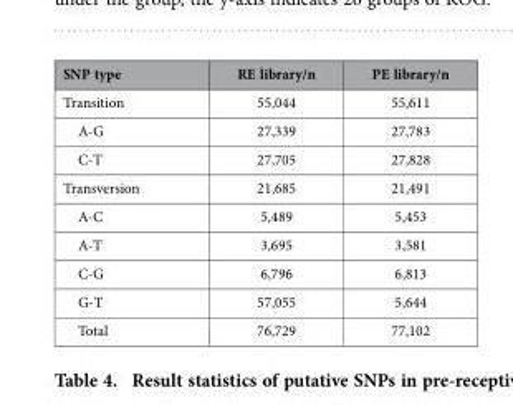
<table><thead><tr><td>SNP type</td><td>RE library/n</td><td>PE library/n</td></tr></thead><tbody><tr><td>Transition</td><td>55,044</td><td>55,611</td></tr><tr><td>A-G</td><td>27,339</td><td>27,783</td></tr><tr><td>C-T</td><td>27,705</td><td>27,828</td></tr><tr><td>Transversion</td><td>21,685</td><td>21,491</td></tr><tr><td>A-C</td><td>5,489</td><td>5,453</td></tr><tr><td>A-T</td><td>3,695</td><td>3,581</td></tr><tr><td>C-G</td><td>6,796</td><td>6,813</td></tr><tr><td>G-T</td><td>57,055</td><td>5,644</td></tr><tr><td>Total</td><td>76,729</td><td>77,102</td></tr></tbody></table>